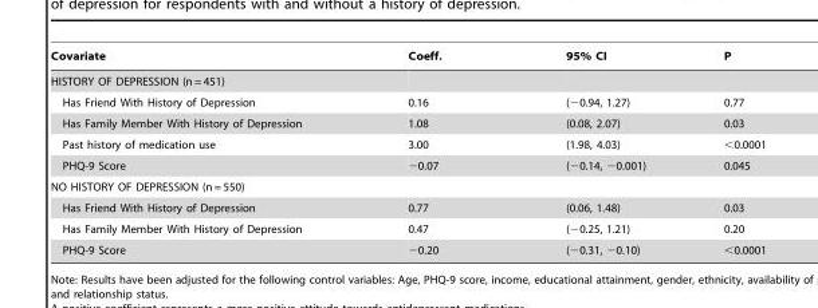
<table><thead><tr><td>Covariate</td><td>Coeff.</td><td>95% CI</td><td>P</td></tr></thead><tbody><tr><td colspan="4">HISTORY OF DEPRESSION (n = 451)</td></tr><tr><td>Has Friend With History of Depression</td><td>0.16</td><td>(−0.94, 1.27)</td><td>0.77</td></tr><tr><td>Has Family Member With History of Depression</td><td>1.08</td><td>(0.08, 2.07)</td><td>0.03</td></tr><tr><td>Past history of medication use</td><td>3.00</td><td>(1.98, 4.03)</td><td>&lt;0.0001</td></tr><tr><td>PHQ-9 Score</td><td>−0.07</td><td>(−0.14, −0.001)</td><td>0.045</td></tr><tr><td colspan="4">NO HISTORY OF DEPRESSION (n = 550)</td></tr><tr><td>Has Friend With History of Depression</td><td>0.77</td><td>(0.06, 1.48)</td><td>0.03</td></tr><tr><td>Has Family Member With History of Depression</td><td>0.47</td><td>(−0.25, 1.21)</td><td>0.20</td></tr><tr><td>PHQ-9 Score</td><td>−0.20</td><td>(−0.31, −0.10)</td><td>&lt;0.0001</td></tr></tbody></table>